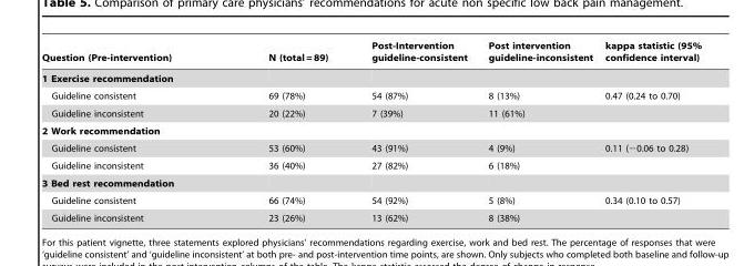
<table><thead><tr><td>Question (Pre-intervention)</td><td>N (total = 89)</td><td>Post-Intervention guideline-consistent</td><td>Post intervention guideline-inconsistent</td><td>kappa statistic (95% confidence interval)</td></tr></thead><tbody><tr><td colspan="5">1 Exercise recommendation</td></tr><tr><td>Guideline consistent</td><td>69 (78%)</td><td>54 (87%)</td><td>8 (13%)</td><td>0.47 (0.24 to 0.70)</td></tr><tr><td>Guideline inconsistent</td><td>20 (22%)</td><td>7 (39%)</td><td>11 (61%)</td><td></td></tr><tr><td colspan="5">2 Work recommendation</td></tr><tr><td>Guideline consistent</td><td>53 (60%)</td><td>43 (91%)</td><td>4 (9%)</td><td>0.11 (−0.06 to 0.28)</td></tr><tr><td>Guideline inconsistent</td><td>36 (40%)</td><td>27 (82%)</td><td>6 (18%)</td><td></td></tr><tr><td colspan="5">3 Bed rest recommendation</td></tr><tr><td>Guideline consistent</td><td>66 (74%)</td><td>54 (92%)</td><td>5 (8%)</td><td>0.34 (0.10 to 0.57)</td></tr><tr><td>Guideline inconsistent</td><td>23 (26%)</td><td>13 (62%)</td><td>8 (38%)</td><td></td></tr></tbody></table>